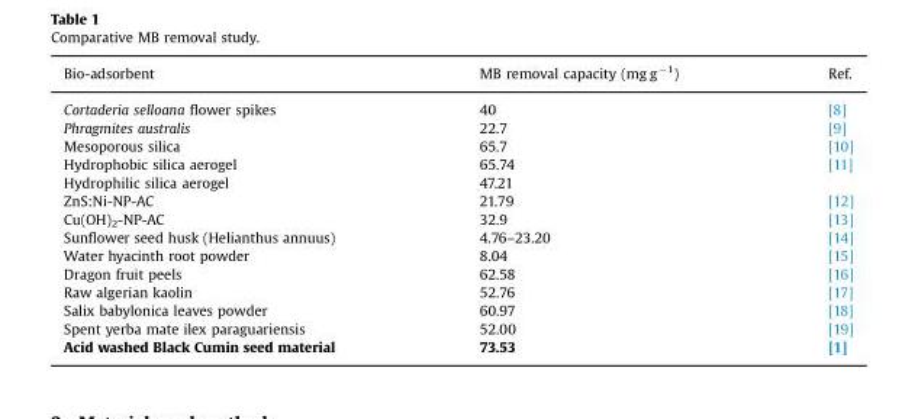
<table><thead><tr><td>Bio-adsorbent</td><td>MB removal capacity (mg g<sup>−1</sup>)</td><td>Ref.</td></tr></thead><tbody><tr><td>Cortaderia selloana flower spikes</td><td>40</td><td>[8]</td></tr><tr><td>Phragmites australis</td><td>22.7</td><td>[9]</td></tr><tr><td>Mesoporous silica</td><td>65.7</td><td>[10]</td></tr><tr><td>Hydrophobic silica aerogel</td><td>65.74</td><td rowspan="2">[11]</td></tr><tr><td>Hydrophilic silica aerogel</td><td>47.21</td></tr><tr><td>ZnS:Ni-NP-AC</td><td>21.79</td><td>[12]</td></tr><tr><td>Cu(OH)<sub>2</sub>-NP-AC</td><td>32.9</td><td>[13]</td></tr><tr><td>Sunflower seed husk (Helianthus annuus)</td><td>4.76–23.20</td><td>[14]</td></tr><tr><td>Water hyacinth root powder</td><td>8.04</td><td>[15]</td></tr><tr><td>Dragon fruit peels</td><td>62.58</td><td>[16]</td></tr><tr><td>Raw algerian kaolin</td><td>52.76</td><td>[17]</td></tr><tr><td>Salix babylonica leaves powder</td><td>60.97</td><td>[18]</td></tr><tr><td>Spent yerba mate ilex paraguariensis</td><td>52.00</td><td>[19]</td></tr><tr><td>Acid washed Black Cumin seed material</td><td>73.53</td><td>[1]</td></tr></tbody></table>